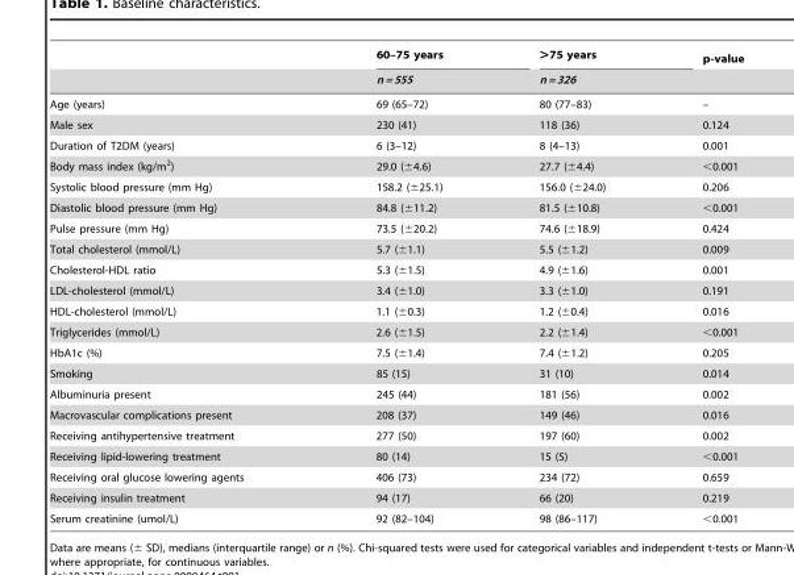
<table><thead><tr><td rowspan="2"></td><td rowspan="2">60–75 years n = 555</td><td rowspan="2">&gt;75 years n = 326</td><td rowspan="2">p-value</td></tr><tr></tr></thead><tbody><tr><td>Age (years)</td><td>69 (65–72)</td><td>80 (77–83)</td><td>–</td></tr><tr><td>Male sex</td><td>230 (41)</td><td>118 (36)</td><td>0.124</td></tr><tr><td>Duration of T2DM (years)</td><td>6 (3–12)</td><td>8 (4–13)</td><td>0.001</td></tr><tr><td>Body mass index (kg/m<sup>2</sup>)</td><td>29.0 (±4.6)</td><td>27.7 (±4.4)</td><td>&lt;0.001</td></tr><tr><td>Systolic blood pressure (mm Hg)</td><td>158.2 (±25.1)</td><td>156.0 (±24.0)</td><td>0.206</td></tr><tr><td>Diastolic blood pressure (mm Hg)</td><td>84.8 (±11.2)</td><td>81.5 (±10.8)</td><td>&lt;0.001</td></tr><tr><td>Pulse pressure (mm Hg)</td><td>73.5 (±20.2)</td><td>74.6 (±18.9)</td><td>0.424</td></tr><tr><td>Total cholesterol (mmol/L)</td><td>5.7 (±1.1)</td><td>5.5 (±1.2)</td><td>0.009</td></tr><tr><td>Cholesterol-HDL ratio</td><td>5.3 (±1.5)</td><td>4.9 (±1.6)</td><td>0.001</td></tr><tr><td>LDL-cholesterol (mmol/L)</td><td>3.4 (±1.0)</td><td>3.3 (±1.0)</td><td>0.191</td></tr><tr><td>HDL-cholesterol (mmol/L)</td><td>1.1 (±0.3)</td><td>1.2 (±0.4)</td><td>0.016</td></tr><tr><td>Triglycerides (mmol/L)</td><td>2.6 (±1.5)</td><td>2.2 (±1.4)</td><td>&lt;0.001</td></tr><tr><td>HbA1c (%)</td><td>7.5 (±1.4)</td><td>7.4 (±1.2)</td><td>0.205</td></tr><tr><td>Smoking</td><td>85 (15)</td><td>31 (10)</td><td>0.014</td></tr><tr><td>Albuminuria present</td><td>245 (44)</td><td>181 (56)</td><td>0.002</td></tr><tr><td>Macrovascular complications present</td><td>208 (37)</td><td>149 (46)</td><td>0.016</td></tr><tr><td>Receiving antihypertensive treatment</td><td>277 (50)</td><td>197 (60)</td><td>0.002</td></tr><tr><td>Receiving lipid-lowering treatment</td><td>80 (14)</td><td>15 (5)</td><td>&lt;0.001</td></tr><tr><td>Receiving oral glucose lowering agents</td><td>406 (73)</td><td>234 (72)</td><td>0.659</td></tr><tr><td>Receiving insulin treatment</td><td>94 (17)</td><td>66 (20)</td><td>0.219</td></tr><tr><td>Serum creatinine (umol/L)</td><td>92 (82–104)</td><td>98 (86–117)</td><td>&lt;0.001</td></tr></tbody></table>